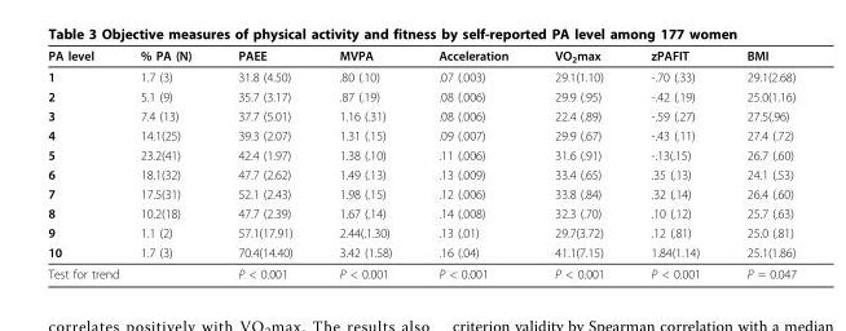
<table><thead><tr><td>PA level</td><td>% PA (N)</td><td>PAEE</td><td>MVPA</td><td>Acceleration</td><td>VO<sub>2</sub>max</td><td>zPAFIT</td><td>BMI</td></tr></thead><tbody><tr><td>1</td><td>1.7 (3)</td><td>31.8 (4.50)</td><td>.80 (.10)</td><td>.07 (.003)</td><td>29.1(1.10)</td><td>-.70 (.33)</td><td>29.1(2.68)</td></tr><tr><td>2</td><td>5.1 (9)</td><td>35.7 (3.17)</td><td>.87 (.19)</td><td>.08 (.006)</td><td>29.9 (.95)</td><td>-.42 (.19)</td><td>25.0(1.16)</td></tr><tr><td>3</td><td>7.4 (13)</td><td>37.7 (5.01)</td><td>1.16 (.31)</td><td>.08 (.006)</td><td>22.4 (.89)</td><td>-.59 (.27)</td><td>27.5(.96)</td></tr><tr><td>4</td><td>14.1(25)</td><td>39.3 (2.07)</td><td>1.31 (.15)</td><td>.09 (.007)</td><td>29.9 (.67)</td><td>-.43 (.11)</td><td>27.4 (.72)</td></tr><tr><td>5</td><td>23.2(41)</td><td>42.4 (1.97)</td><td>1.38 (.10)</td><td>.11 (.006)</td><td>31.6 (.91)</td><td>-.13(.15)</td><td>26.7 (.60)</td></tr><tr><td>6</td><td>18.1(32)</td><td>47.7 (2.62)</td><td>1.49 (.13)</td><td>.13 (.009)</td><td>33.4 (.65)</td><td>.35 (.13)</td><td>24.1 (.53)</td></tr><tr><td>7</td><td>17.5(31)</td><td>52.1 (2.43)</td><td>1.98 (.15)</td><td>.12 (.006)</td><td>33.8 (.84)</td><td>.32 (.14)</td><td>26.4 (.60)</td></tr><tr><td>8</td><td>10.2(18)</td><td>47.7 (2.39)</td><td>1.67 (.14)</td><td>.14 (.008)</td><td>32.3 (.70)</td><td>.10 (.12)</td><td>25.7 (.63)</td></tr><tr><td>9</td><td>1.1 (2)</td><td>57.1(17.91)</td><td>2.44(.1.30)</td><td>.13 (.01)</td><td>29.7(3.72)</td><td>.12 (.81)</td><td>25.0 (.81)</td></tr><tr><td>10</td><td>1.7 (3)</td><td>70.4(14.40)</td><td>3.42 (1.58)</td><td>.16 (.04)</td><td>41.1(7.15)</td><td>1.84(1.14)</td><td>25.1(1.86)</td></tr><tr><td colspan="2">Test for trend</td><td>P &lt; 0.001</td><td>P &lt; 0.001</td><td>P &lt; 0.001</td><td>P &lt; 0.001</td><td>P &lt; 0.001</td><td>P = 0.047</td></tr></tbody></table>